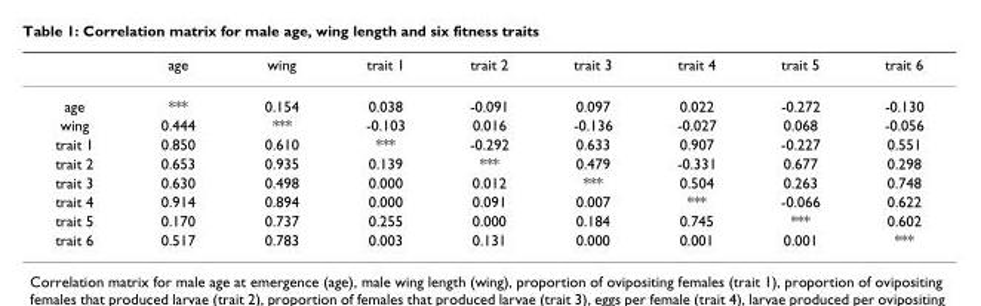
<table><thead><tr><td></td><td>age</td><td>wing</td><td>trait 1</td><td>trait 2</td><td>trait 3</td><td>trait 4</td><td>trait 5</td><td>trait 6</td></tr></thead><tbody><tr><td>age</td><td>***</td><td>0.154</td><td>0.038</td><td>-0.091</td><td>0.097</td><td>0.022</td><td>-0.272</td><td>-0.130</td></tr><tr><td>wing</td><td>0.444</td><td>***</td><td>-0.103</td><td>0.016</td><td>-0.136</td><td>-0.027</td><td>0.068</td><td>-0.056</td></tr><tr><td>trait 1</td><td>0.850</td><td>0.610</td><td>***</td><td>-0.292</td><td>0.633</td><td>0.907</td><td>-0.227</td><td>0.551</td></tr><tr><td>trait 2</td><td>0.653</td><td>0.935</td><td>0.139</td><td>***</td><td>0.479</td><td>-0.331</td><td>0.677</td><td>0.298</td></tr><tr><td>trait 3</td><td>0.630</td><td>0.498</td><td>0.000</td><td>0.012</td><td>***</td><td>0.504</td><td>0.263</td><td>0.748</td></tr><tr><td>trait 4</td><td>0.914</td><td>0.894</td><td>0.000</td><td>0.091</td><td>0.007</td><td>***</td><td>-0.066</td><td>0.622</td></tr><tr><td>trait 5</td><td>0.170</td><td>0.737</td><td>0.255</td><td>0.000</td><td>0.184</td><td>0.745</td><td>***</td><td>0.602</td></tr><tr><td>trait 6</td><td>0.517</td><td>0.783</td><td>0.003</td><td>0.131</td><td>0.000</td><td>0.001</td><td>0.001</td><td>***</td></tr></tbody></table>